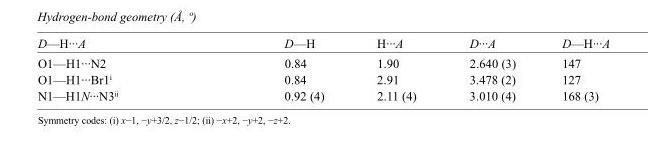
<table><tbody><tr><td>D—H···A</td><td>D—H</td><td>H···A</td><td>D···A</td><td>D—H···A</td></tr><tr><td>O1—H1···N2</td><td>0.84</td><td>1.90</td><td>2.640 (3)</td><td>147</td></tr><tr><td>O1—H1···Br1<sup>i</sup></td><td>0.84</td><td>2.91</td><td>3.478 (2)</td><td>127</td></tr><tr><td>N1—H1N···N3<sup>ii</sup></td><td>0.92 (4)</td><td>2.11 (4)</td><td>3.010 (4)</td><td>168 (3)</td></tr></tbody></table>